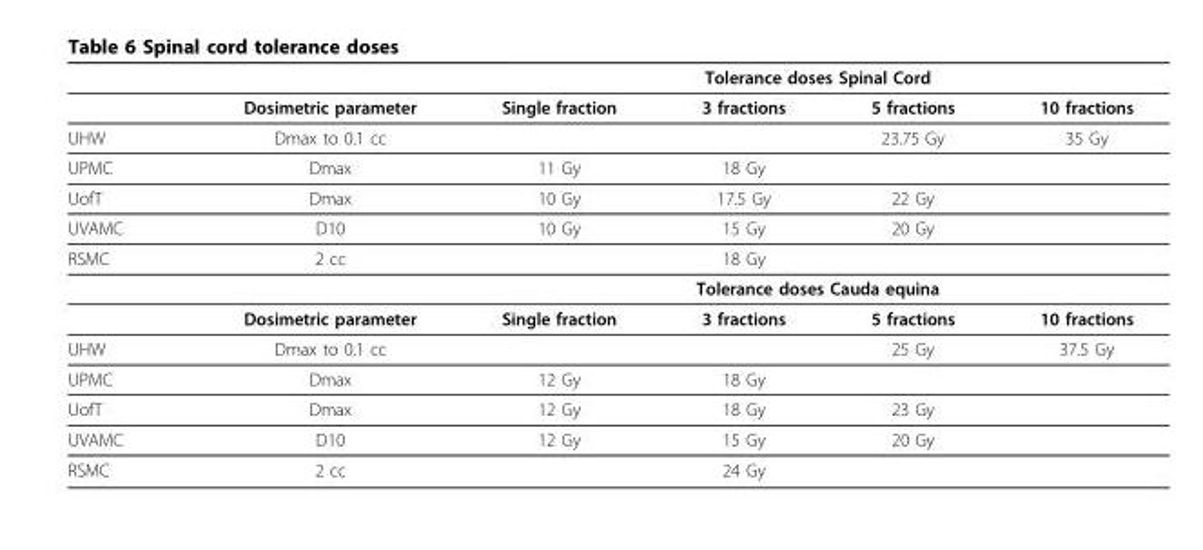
<table><thead><tr><td rowspan="2"></td><td rowspan="2">Dosimetric parameter</td><td colspan="4">Tolerance doses Spinal Cord</td></tr><tr><td>Single fraction</td><td>3 fractions</td><td>5 fractions</td><td>10 fractions</td></tr></thead><tbody><tr><td>UHW</td><td>Dmax to 0.1 cc</td><td></td><td></td><td>23.75 Gy</td><td>35 Gy</td></tr><tr><td>UPMC</td><td>Dmax</td><td>11 Gy</td><td>18 Gy</td><td></td><td></td></tr><tr><td>UofT</td><td>Dmax</td><td>10 Gy</td><td>17.5 Gy</td><td>22 Gy</td><td></td></tr><tr><td>UVAMC</td><td>D10</td><td>10 Gy</td><td>15 Gy</td><td>20 Gy</td><td></td></tr><tr><td rowspan="3">RSMC</td><td>2 cc</td><td></td><td>18 Gy</td><td></td><td></td></tr><tr><td></td><td colspan="4">Tolerance doses Cauda equina</td></tr><tr><td>Dosimetric parameter</td><td>Single fraction</td><td>3 fractions</td><td>5 fractions</td><td>10 fractions</td></tr><tr><td>UHW</td><td>Dmax to 0.1 cc</td><td></td><td></td><td>25 Gy</td><td>37.5 Gy</td></tr><tr><td>UPMC</td><td>Dmax</td><td>12 Gy</td><td>18 Gy</td><td></td><td></td></tr><tr><td>UofT</td><td>Dmax</td><td>12 Gy</td><td>18 Gy</td><td>23 Gy</td><td></td></tr><tr><td>UVAMC</td><td>D10</td><td>12 Gy</td><td>15 Gy</td><td>20 Gy</td><td></td></tr><tr><td>RSMC</td><td>2 cc</td><td></td><td>24 Gy</td><td></td><td></td></tr></tbody></table>